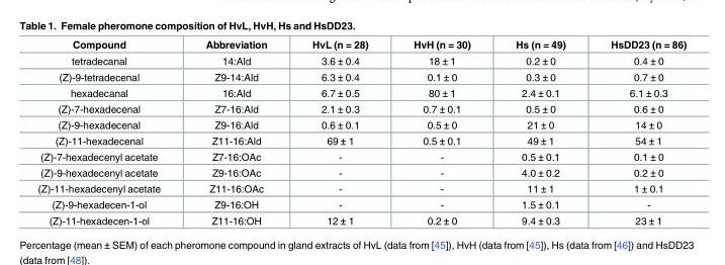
<table><thead><tr><td>Compound</td><td>Abbreviation</td><td>HvL (n = 28)</td><td>HvH (n = 30)</td><td>Hs (n = 49)</td><td>HsDD23 (n = 86)</td></tr></thead><tbody><tr><td>tetradecanal</td><td>14:Ald</td><td>3.6 ± 0.4</td><td>18 ± 1</td><td>0.2 ± 0</td><td>0.4 ± 0</td></tr><tr><td>(Z)-9-tetradecenal</td><td>Z9-14:Ald</td><td>6.3 ± 0.4</td><td>0.1 ± 0</td><td>0.3 ± 0</td><td>0.7 ± 0</td></tr><tr><td>hexadecanal</td><td>16:Ald</td><td>6.7 ± 0.5</td><td>80 ± 1</td><td>2.4 ± 0.1</td><td>6.1 ± 0.3</td></tr><tr><td>(Z)-7-hexadecenal</td><td>Z7-16:Ald</td><td>2.1 ± 0.3</td><td>0.7 ± 0.1</td><td>0.5 ± 0</td><td>0.6 ± 0</td></tr><tr><td>(Z)-9-hexadecenal</td><td>Z9-16:Ald</td><td>0.6 ± 0.1</td><td>0.5 ± 0</td><td>21 ± 0</td><td>14 ± 0</td></tr><tr><td>(Z)-11-hexadecenal</td><td>Z11-16:Ald</td><td>69 ± 1</td><td>0.5 ± 0.1</td><td>49 ± 1</td><td>54 ± 1</td></tr><tr><td>(Z)-7-hexadecenyl acetate</td><td>Z7-16:OAc</td><td>-</td><td>-</td><td>0.5 ± 0.1</td><td>0.1 ± 0</td></tr><tr><td>(Z)-9-hexadecenyl acetate</td><td>Z9-16:OAc</td><td>-</td><td>-</td><td>4.0 ± 0.2</td><td>0.2 ± 0</td></tr><tr><td>(Z)-11-hexadecenyl acetate</td><td>Z11-16:OAc</td><td>-</td><td>-</td><td>11 ± 1</td><td>1 ± 0.1</td></tr><tr><td>(Z)-9-hexadecen-1-ol</td><td>Z9-16:OH</td><td>-</td><td>-</td><td>1.5 ± 0.1</td><td>-</td></tr><tr><td>(Z)-11-hexadecen-1-ol</td><td>Z11-16:OH</td><td>12 ± 1</td><td>0.2 ± 0</td><td>9.4 ± 0.3</td><td>23 ± 1</td></tr></tbody></table>